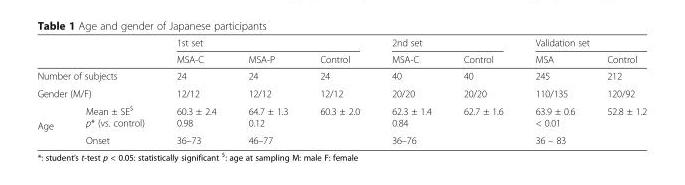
<table><thead><tr><td rowspan="2"></td><td rowspan="2"></td><td colspan="3">1st set</td><td colspan="2">2nd set</td><td colspan="2">Validation set</td></tr><tr><td>MSA-C</td><td>MSA-P</td><td>Control</td><td>MSA-C</td><td>Control</td><td>MSA</td><td>Control</td></tr></thead><tbody><tr><td colspan="2">Number of subjects</td><td>24</td><td>24</td><td>24</td><td>40</td><td>40</td><td>245</td><td>212</td></tr><tr><td colspan="2">Gender (M/F)</td><td>12/12</td><td>12/12</td><td>12/12</td><td>20/20</td><td>20/20</td><td>110/135</td><td>120/92</td></tr><tr><td rowspan="2">Age</td><td>Mean ± SE<sup>$</sup> p* (vs. control)</td><td>60.3 ± 2.4 0.98</td><td>64.7 ± 1.3 0.12</td><td>60.3 ± 2.0</td><td>62.3 ± 1.4 0.84</td><td>62.7 ± 1.6</td><td>63.9 ± 0.6 &lt; 0.01</td><td>52.8 ± 1.2</td></tr><tr><td>Onset</td><td>36–73</td><td>46–77</td><td></td><td>36–76</td><td></td><td>36 – 83</td><td></td></tr></tbody></table>